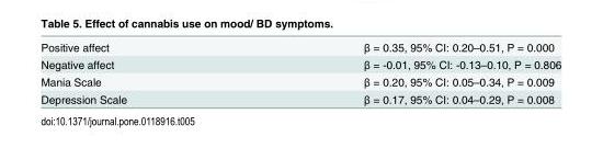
<table><tbody><tr><td>Positive affect</td><td>β = 0.35, 95% CI: 0.20–0.51, P = 0.000</td></tr><tr><td>Negative affect</td><td>β = -0.01, 95% CI: -0.13–0.10, P = 0.806</td></tr><tr><td>Mania Scale</td><td>β = 0.20, 95% CI: 0.05–0.34, P = 0.009</td></tr><tr><td>Depression Scale</td><td>β = 0.17, 95% CI: 0.04–0.29, P = 0.008</td></tr></tbody></table>